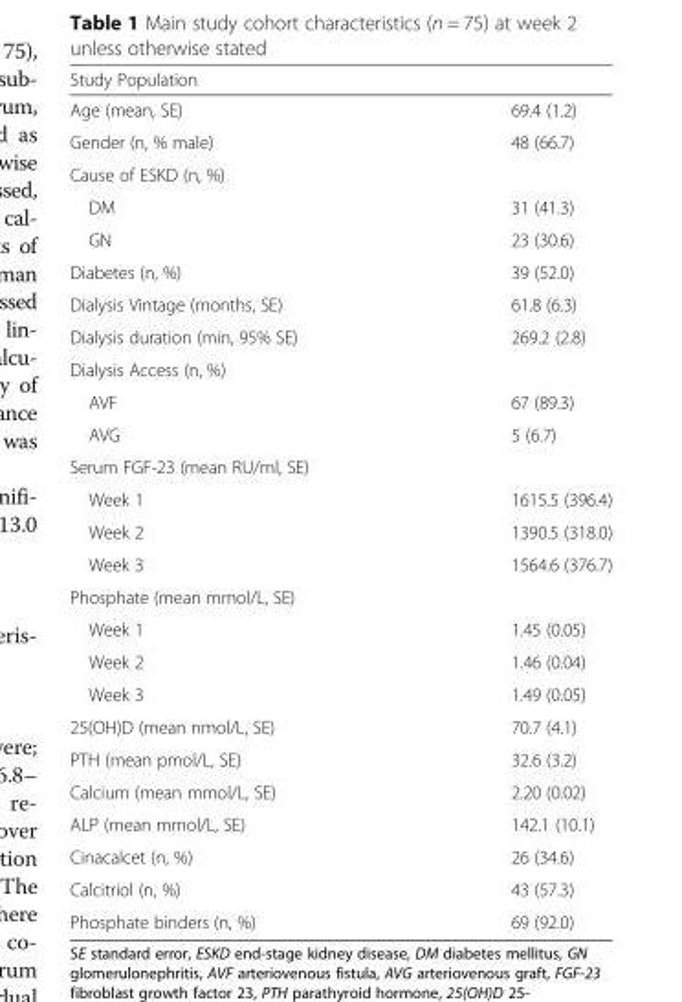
<table><thead><tr><td colspan="2">Study Population</td></tr><tr><td>Age (mean, SE)</td><td>69.4 (1.2)</td></tr></thead><tbody><tr><td>Gender (n, % male)</td><td>48 (66.7)</td></tr><tr><td colspan="2">Cause of ESKD (n, %)</td></tr><tr><td>DM</td><td>31 (41.3)</td></tr><tr><td>GN</td><td>23 (30.6)</td></tr><tr><td>Diabetes (n, %)</td><td>39 (52.0)</td></tr><tr><td>Dialysis Vintage (months, SE)</td><td>61.8 (6.3)</td></tr><tr><td>Dialysis duration (min, 95% SE)</td><td>269.2 (2.8)</td></tr><tr><td colspan="2">Dialysis Access (n, %)</td></tr><tr><td>AVF</td><td>67 (89.3)</td></tr><tr><td>AVG</td><td>5 (6.7)</td></tr><tr><td colspan="2">Serum FGF-23 (mean RU/ml, SE)</td></tr><tr><td>Week 1</td><td>1615.5 (396.4)</td></tr><tr><td>Week 2</td><td>1390.5 (318.0)</td></tr><tr><td>Week 3</td><td>1564.6 (376.7)</td></tr><tr><td colspan="2">Phosphate (mean mmol/L, SE)</td></tr><tr><td>Week 1</td><td>1.45 (0.05)</td></tr><tr><td>Week 2</td><td>1.46 (0.04)</td></tr><tr><td>Week 3</td><td>1.49 (0.05)</td></tr><tr><td>25(OH)D (mean nmol/L, SE)</td><td>70.7 (4.1)</td></tr><tr><td>PTH (mean pmol/L, SE)</td><td>32.6 (3.2)</td></tr><tr><td>Calcium (mean mmol/L, SE)</td><td>2.20 (0.02)</td></tr><tr><td>ALP (mean mmol/L, SE)</td><td>142.1 (10.1)</td></tr><tr><td>Cinacalcet (n, %)</td><td>26 (34.6)</td></tr><tr><td>Calcitriol (n, %)</td><td>43 (57.3)</td></tr><tr><td>Phosphate binders (n, %)</td><td>69 (92.0)</td></tr></tbody></table>